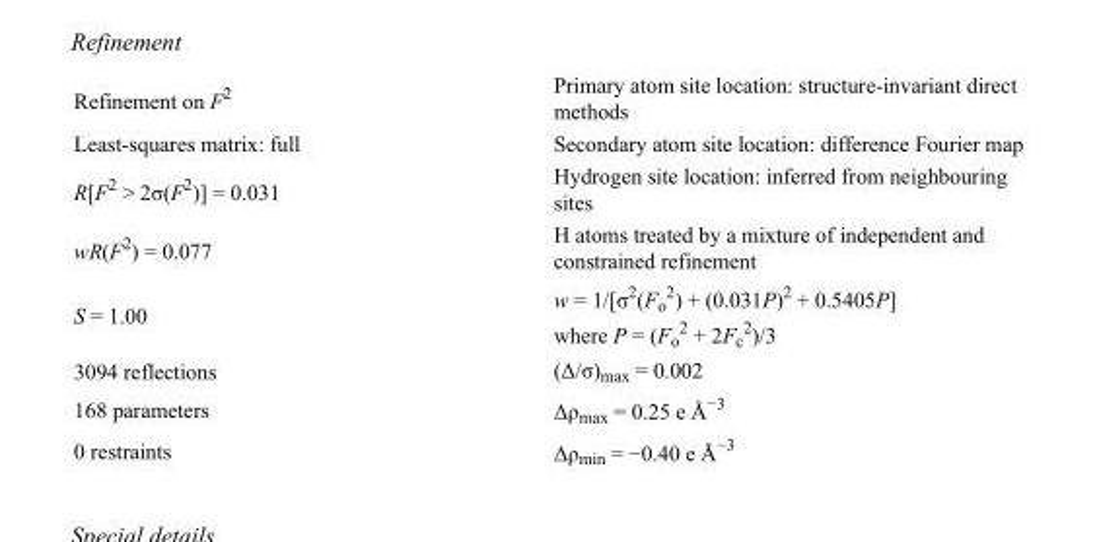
<table><tbody><tr><td>Refinement on F<sup>2</sup></td><td>Primary atom site location: structure-invariant direct methods</td></tr><tr><td>Least-squares matrix: full</td><td>Secondary atom site location: difference Fourier map</td></tr><tr><td>R[F<sup>2</sup> &gt; 2σ(F<sup>2</sup>)] = 0.031</td><td>Hydrogen site location: inferred from neighbouring sites</td></tr><tr><td>wR(F<sup>2</sup>) = 0.077</td><td>H atoms treated by a mixture of independent and constrained refinement</td></tr><tr><td>S = 1.00</td><td>w = 1/[σ<sup>2</sup>(F<sub>o</sub> <sup>2</sup>) + (0.031P)<sup>2</sup> + 0.5405P] where P = (F<sub>o</sub> <sup>2</sup> + 2F<sub>c</sub> <sup>2</sup>)/3</td></tr><tr><td>3094 reflections</td><td>(Δ/σ)<sub>max</sub> = 0.002</td></tr><tr><td>168 parameters</td><td>Δρ<sub>max</sub> = 0.25 e Å<sup>−3</sup></td></tr><tr><td>0 restraints</td><td>Δρ<sub>min</sub> = −0.40 e Å<sup>−3</sup></td></tr></tbody></table>